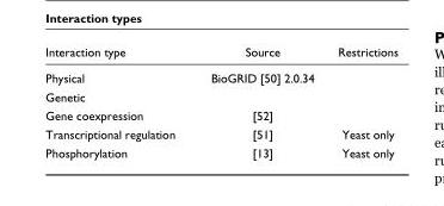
<table><thead><tr><td>Interaction type</td><td>Source</td><td>Restrictions</td></tr></thead><tbody><tr><td>Physical</td><td>BioGRID [50] 2.0.34</td><td></td></tr><tr><td colspan="3">Genetic</td></tr><tr><td>Gene coexpression</td><td>[52]</td><td></td></tr><tr><td>Transcriptional regulation</td><td>[51]</td><td>Yeast only</td></tr><tr><td>Phosphorylation</td><td>[13]</td><td>Yeast only</td></tr></tbody></table>